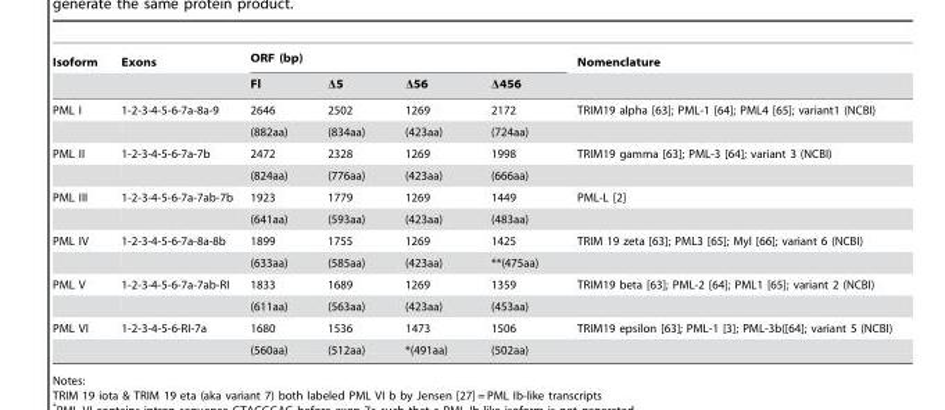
<table><thead><tr><td rowspan="2">Isoform</td><td rowspan="2">Exons</td><td colspan="4">ORF (bp)</td><td rowspan="2">Nomenclature</td></tr><tr><td>Fl</td><td>Δ5</td><td>Δ56</td><td>Δ456</td></tr></thead><tbody><tr><td rowspan="2">PML I</td><td>1-2-3-4-5-6-7a-8a-9</td><td>2646</td><td>2502</td><td>1269</td><td>2172</td><td>TRIM19 alpha [63]; PML-1 [64]; PML4 [65]; variant1 (NCBI)</td></tr><tr><td></td><td>(882aa)</td><td>(834aa)</td><td>(423aa)</td><td>(724aa)</td><td></td></tr><tr><td rowspan="2">PML II</td><td>1-2-3-4-5-6-7a-7b</td><td>2472</td><td>2328</td><td>1269</td><td>1998</td><td>TRIM19 gamma [63]; PML-3 [64]; variant 3 (NCBI)</td></tr><tr><td></td><td>(824aa)</td><td>(776aa)</td><td>(423aa)</td><td>(666aa)</td><td></td></tr><tr><td rowspan="2">PML III</td><td>1-2-3-4-5-6-7a-7ab-7b</td><td>1923</td><td>1779</td><td>1269</td><td>1449</td><td>PML-L [2]</td></tr><tr><td></td><td>(641aa)</td><td>(593aa)</td><td>(423aa)</td><td>(483aa)</td><td></td></tr><tr><td rowspan="2">PML IV</td><td>1-2-3-4-5-6-7a-8a-8b</td><td>1899</td><td>1755</td><td>1269</td><td>1425</td><td>TRIM 19 zeta [63]; PML3 [65]; Myl [66]; variant 6 (NCBI)</td></tr><tr><td></td><td>(633aa)</td><td>(585aa)</td><td>(423aa)</td><td>**(475aa)</td><td></td></tr><tr><td rowspan="2">PML V</td><td>1-2-3-4-5-6-7a-7ab-RI</td><td>1833</td><td>1689</td><td>1269</td><td>1359</td><td>TRIM19 beta [63]; PML-2 [64]; PML1 [65]; variant 2 (NCBI)</td></tr><tr><td></td><td>(611aa)</td><td>(563aa)</td><td>(423aa)</td><td>(453aa)</td><td></td></tr><tr><td rowspan="2">PML VI</td><td>1-2-3-4-5-6-RI-7a</td><td>1680</td><td>1536</td><td>1473</td><td>1506</td><td>TRIM19 epsilon [63]; PML-1 [3]; PML-3b([64]; variant 5 (NCBI)</td></tr><tr><td></td><td>(560aa)</td><td>(512aa)</td><td>*(491aa)</td><td>(502aa)</td><td></td></tr></tbody></table>